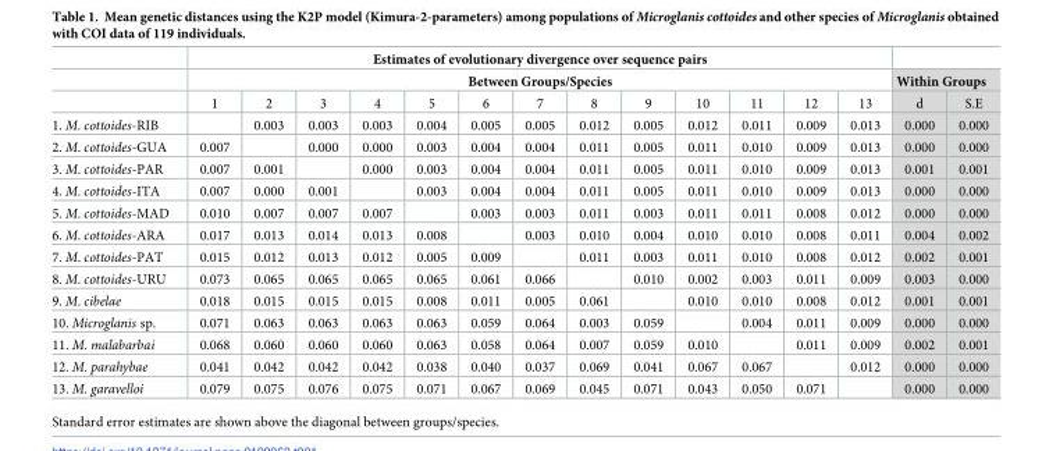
<table><thead><tr><td rowspan="3"></td><td rowspan="2" colspan="13">Estimates of evolutionary divergence over sequence pairs Between Groups/Species</td><td></td><td></td></tr><tr><td colspan="2">Within Groups</td></tr><tr><td>1</td><td>2</td><td>3</td><td>4</td><td>5</td><td>6</td><td>7</td><td>8</td><td>9</td><td>10</td><td>11</td><td>12</td><td>13</td><td>d</td><td>S.E</td></tr></thead><tbody><tr><td>1. M. cottoides-RIB</td><td></td><td>0.003</td><td>0.003</td><td>0.003</td><td>0.004</td><td>0.005</td><td>0.005</td><td>0.012</td><td>0.005</td><td>0.012</td><td>0.011</td><td>0.009</td><td>0.013</td><td>0.000</td><td>0.000</td></tr><tr><td>2. M. cottoides-GUA</td><td>0.007</td><td></td><td>0.000</td><td>0.000</td><td>0.003</td><td>0.004</td><td>0.004</td><td>0.011</td><td>0.005</td><td>0.011</td><td>0.010</td><td>0.009</td><td>0.013</td><td>0.000</td><td>0.000</td></tr><tr><td>3. M. cottoides-PAR</td><td>0.007</td><td>0.001</td><td></td><td>0.000</td><td>0.003</td><td>0.004</td><td>0.004</td><td>0.011</td><td>0.005</td><td>0.011</td><td>0.010</td><td>0.009</td><td>0.013</td><td>0.001</td><td>0.001</td></tr><tr><td>4. M. cottoides-ITA</td><td>0.007</td><td>0.000</td><td>0.001</td><td></td><td>0.003</td><td>0.004</td><td>0.004</td><td>0.011</td><td>0.005</td><td>0.011</td><td>0.010</td><td>0.009</td><td>0.013</td><td>0.000</td><td>0.000</td></tr><tr><td>5. M. cottoides-MAD</td><td>0.010</td><td>0.007</td><td>0.007</td><td>0.007</td><td></td><td>0.003</td><td>0.003</td><td>0.011</td><td>0.003</td><td>0.011</td><td>0.011</td><td>0.008</td><td>0.012</td><td>0.000</td><td>0.000</td></tr><tr><td>6. M. cottoides-ARA</td><td>0.017</td><td>0.013</td><td>0.014</td><td>0.013</td><td>0.008</td><td></td><td>0.003</td><td>0.010</td><td>0.004</td><td>0.010</td><td>0.010</td><td>0.008</td><td>0.011</td><td>0.004</td><td>0.002</td></tr><tr><td>7. M. cottoides-PAT</td><td>0.015</td><td>0.012</td><td>0.013</td><td>0.012</td><td>0.005</td><td>0.009</td><td></td><td>0.011</td><td>0.003</td><td>0.011</td><td>0.010</td><td>0.008</td><td>0.012</td><td>0.002</td><td>0.001</td></tr><tr><td>8. M. cottoides-URU</td><td>0.073</td><td>0.065</td><td>0.065</td><td>0.065</td><td>0.065</td><td>0.061</td><td>0.066</td><td></td><td>0.010</td><td>0.002</td><td>0.003</td><td>0.011</td><td>0.009</td><td>0.003</td><td>0.000</td></tr><tr><td>9. M. cibelae</td><td>0.018</td><td>0.015</td><td>0.015</td><td>0.015</td><td>0.008</td><td>0.011</td><td>0.005</td><td>0.061</td><td></td><td>0.010</td><td>0.010</td><td>0.008</td><td>0.012</td><td>0.001</td><td>0.001</td></tr><tr><td>10. Microglanis sp.</td><td>0.071</td><td>0.063</td><td>0.063</td><td>0.063</td><td>0.063</td><td>0.059</td><td>0.064</td><td>0.003</td><td>0.059</td><td></td><td>0.004</td><td>0.011</td><td>0.009</td><td>0.000</td><td>0.000</td></tr><tr><td>11. M. malabarbai</td><td>0.068</td><td>0.060</td><td>0.060</td><td>0.060</td><td>0.063</td><td>0.058</td><td>0.064</td><td>0.007</td><td>0.059</td><td>0.010</td><td></td><td>0.011</td><td>0.009</td><td>0.002</td><td>0.001</td></tr><tr><td>12. M. parahybae</td><td>0.041</td><td>0.042</td><td>0.042</td><td>0.042</td><td>0.038</td><td>0.040</td><td>0.037</td><td>0.069</td><td>0.041</td><td>0.067</td><td>0.067</td><td></td><td>0.012</td><td>0.000</td><td>0.000</td></tr><tr><td>13. M. garavelloi</td><td>0.079</td><td>0.075</td><td>0.076</td><td>0.075</td><td>0.071</td><td>0.067</td><td>0.069</td><td>0.045</td><td>0.071</td><td>0.043</td><td>0.050</td><td>0.071</td><td></td><td>0.000</td><td>0.000</td></tr></tbody></table>